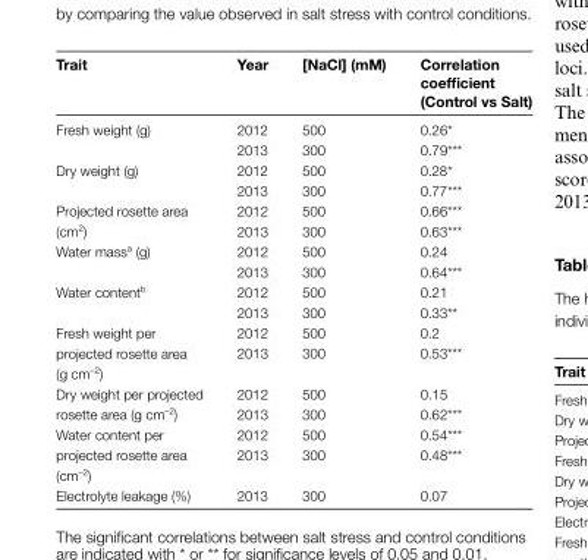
<table><thead><tr><td>Trait</td><td>Year</td><td>[NaCl] (mM)</td><td>Correlation coefficient (Control vs Salt)</td></tr></thead><tbody><tr><td rowspan="2">Fresh weight (g)</td><td>2012</td><td>500</td><td>0.26*</td></tr><tr><td>2013</td><td>300</td><td>0.79***</td></tr><tr><td rowspan="2">Dry weight (g)</td><td>2012</td><td>500</td><td>0.28*</td></tr><tr><td>2013</td><td>300</td><td>0.77***</td></tr><tr><td rowspan="2">Projected rosette area (cm<sup>2</sup>)</td><td>2012</td><td>500</td><td>0.66***</td></tr><tr><td>2013</td><td>300</td><td>0.63***</td></tr><tr><td rowspan="2">Water mass<sup>a</sup> (g)</td><td>2012</td><td>500</td><td>0.24</td></tr><tr><td>2013</td><td>300</td><td>0.64***</td></tr><tr><td rowspan="2">Water content<sup>b</sup></td><td>2012</td><td>500</td><td>0.21</td></tr><tr><td>2013</td><td>300</td><td>0.33**</td></tr><tr><td rowspan="2">Fresh weight per projected rosette area (g cm<sup>–2</sup>)</td><td>2012</td><td>500</td><td>0.2</td></tr><tr><td>2013</td><td>300</td><td>0.53***</td></tr><tr><td rowspan="2">Dry weight per projected rosette area (g cm<sup>–2</sup>)</td><td>2012</td><td>500</td><td>0.15</td></tr><tr><td>2013</td><td>300</td><td>0.62***</td></tr><tr><td rowspan="2">Water content per projected rosette area (cm<sup>–2</sup>)</td><td>2012</td><td>500</td><td>0.54***</td></tr><tr><td>2013</td><td>300</td><td>0.48***</td></tr><tr><td>Electrolyte leakage (%)</td><td>2013</td><td>300</td><td>0.07</td></tr></tbody></table>